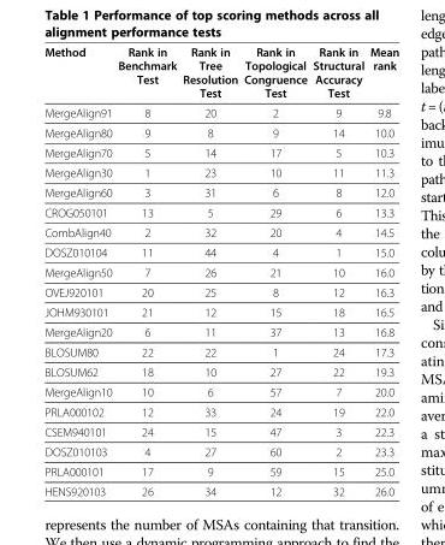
<table><thead><tr><td>Method</td><td>Rank in Benchmark Test</td><td>Rank in Tree Resolution Test</td><td>Rank in Topological Congruence Test</td><td>Rank in Structural Accuracy Test</td><td>Mean rank</td></tr></thead><tbody><tr><td>MergeAlign91</td><td>8</td><td>20</td><td>2</td><td>9</td><td>9.8</td></tr><tr><td>MergeAlign80</td><td>9</td><td>8</td><td>9</td><td>14</td><td>10.0</td></tr><tr><td>MergeAlign70</td><td>5</td><td>14</td><td>17</td><td>5</td><td>10.3</td></tr><tr><td>MergeAlign30</td><td>1</td><td>23</td><td>10</td><td>11</td><td>11.3</td></tr><tr><td>MergeAlign60</td><td>3</td><td>31</td><td>6</td><td>8</td><td>12.0</td></tr><tr><td>CROG050101</td><td>13</td><td>5</td><td>29</td><td>6</td><td>13.3</td></tr><tr><td>CombAlign40</td><td>2</td><td>32</td><td>20</td><td>4</td><td>14.5</td></tr><tr><td>DOSZ010104</td><td>11</td><td>44</td><td>4</td><td>1</td><td>15.0</td></tr><tr><td>MergeAlign50</td><td>7</td><td>26</td><td>21</td><td>10</td><td>16.0</td></tr><tr><td>OVEJ920101</td><td>20</td><td>25</td><td>8</td><td>12</td><td>16.3</td></tr><tr><td>JOHM930101</td><td>21</td><td>12</td><td>15</td><td>18</td><td>16.5</td></tr><tr><td>MergeAlign20</td><td>6</td><td>11</td><td>37</td><td>13</td><td>16.8</td></tr><tr><td>BLOSUM80</td><td>22</td><td>22</td><td>1</td><td>24</td><td>17.3</td></tr><tr><td>BLOSUM62</td><td>18</td><td>10</td><td>27</td><td>22</td><td>19.3</td></tr><tr><td>MergeAlign10</td><td>10</td><td>6</td><td>57</td><td>7</td><td>20.0</td></tr><tr><td>PRLA000102</td><td>12</td><td>33</td><td>24</td><td>19</td><td>22.0</td></tr><tr><td>CSEM940101</td><td>24</td><td>15</td><td>47</td><td>3</td><td>22.3</td></tr><tr><td>DOSZ010103</td><td>4</td><td>27</td><td>60</td><td>2</td><td>23.3</td></tr><tr><td>PRLA000101</td><td>17</td><td>9</td><td>59</td><td>15</td><td>25.0</td></tr><tr><td>HENS920103</td><td>26</td><td>34</td><td>12</td><td>32</td><td>26.0</td></tr></tbody></table>